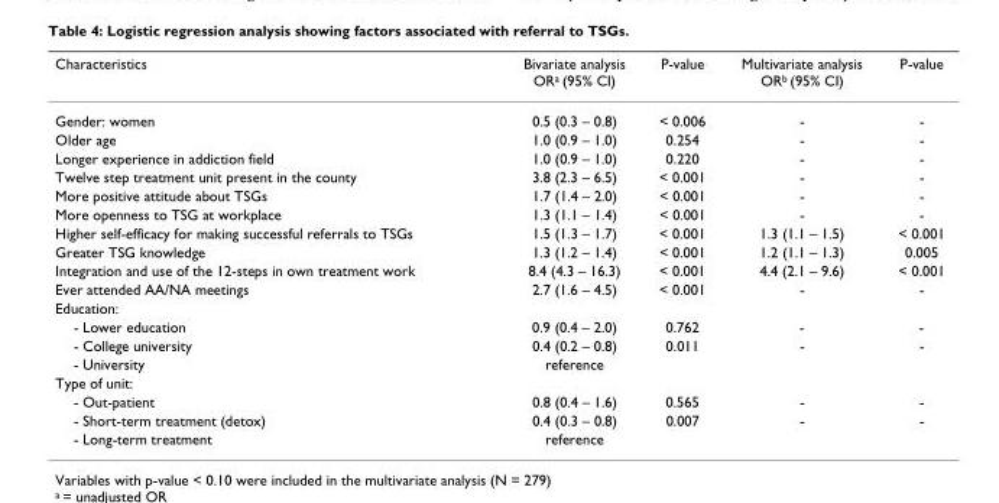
<table><thead><tr><td>Characteristics</td><td>Bivariate analysis OR<sup>a</sup> (95% CI)</td><td>P-value</td><td>Multivariate analysis OR<sup>b</sup> (95% CI)</td><td>P-value</td></tr></thead><tbody><tr><td>Gender: women</td><td>0.5 (0.3 – 0.8)</td><td>&lt; 0.006</td><td>-</td><td>-</td></tr><tr><td>Older age</td><td>1.0 (0.9 – 1.0)</td><td>0.254</td><td>-</td><td>-</td></tr><tr><td>Longer experience in addiction field</td><td>1.0 (0.9 – 1.0)</td><td>0.220</td><td>-</td><td>-</td></tr><tr><td>Twelve step treatment unit present in the county</td><td>3.8 (2.3 – 6.5)</td><td>&lt; 0.001</td><td>-</td><td>-</td></tr><tr><td>More positive attitude about TSGs</td><td>1.7 (1.4 – 2.0)</td><td>&lt; 0.001</td><td>-</td><td>-</td></tr><tr><td>More openness to TSG at workplace</td><td>1.3 (1.1 – 1.4)</td><td>&lt; 0.001</td><td>-</td><td>-</td></tr><tr><td>Higher self-efficacy for making successful referrals to TSGs</td><td>1.5 (1.3 – 1.7)</td><td>&lt; 0.001</td><td>1.3 (1.1 – 1.5)</td><td>&lt; 0.001</td></tr><tr><td>Greater TSG knowledge</td><td>1.3 (1.2 – 1.4)</td><td>&lt; 0.001</td><td>1.2 (1.1 – 1.3)</td><td>0.005</td></tr><tr><td>Integration and use of the 12-steps in own treatment work</td><td>8.4 (4.3 – 16.3)</td><td>&lt; 0.001</td><td>4.4 (2.1 – 9.6)</td><td>&lt; 0.001</td></tr><tr><td>Ever attended AA/NA meetings</td><td>2.7 (1.6 – 4.5)</td><td>&lt; 0.001</td><td>-</td><td>-</td></tr><tr><td colspan="5">Education:</td></tr><tr><td>- Lower education</td><td>0.9 (0.4 – 2.0)</td><td>0.762</td><td>-</td><td>-</td></tr><tr><td>- College university</td><td>0.4 (0.2 – 0.8)</td><td>0.011</td><td>-</td><td>-</td></tr><tr><td>- University</td><td>reference</td><td></td><td></td><td></td></tr><tr><td colspan="5">Type of unit:</td></tr><tr><td>- Out-patient</td><td>0.8 (0.4 – 1.6)</td><td>0.565</td><td>-</td><td>-</td></tr><tr><td>- Short-term treatment (detox)</td><td>0.4 (0.3 – 0.8)</td><td>0.007</td><td>-</td><td>-</td></tr><tr><td>- Long-term treatment</td><td>reference</td><td></td><td></td><td></td></tr></tbody></table>